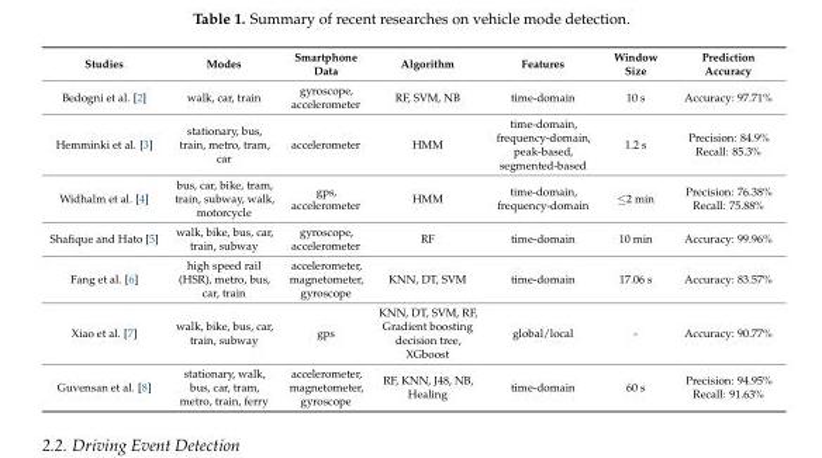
<table><thead><tr><td>Studies</td><td>Modes</td><td>Smartphone Data</td><td>Algorithm</td><td>Features</td><td>Window Size</td><td>Prediction Accuracy</td></tr></thead><tbody><tr><td>Bedogni et al. [2]</td><td>walk, car, train</td><td>gyroscope, accelerometer</td><td>RF, SVM, NB</td><td>time-domain</td><td>10 s</td><td>Accuracy: 97.71%</td></tr><tr><td>Hemminki et al. [3]</td><td>stationary, bus, train, metro, tram, car</td><td>accelerometer</td><td>HMM</td><td>time-domain, frequency-domain, peak-based, segmented-based</td><td>1.2 s</td><td>Precision: 84.9% Recall: 85.3%</td></tr><tr><td>Widhalm et al. [4]</td><td>bus, car, bike, tram, train, subway, walk, motorcycle</td><td>gps, accelerometer</td><td>HMM</td><td>time-domain, frequency-domain</td><td>≤2 min</td><td>Precision: 76.38% Recall: 75.88%</td></tr><tr><td>Shafique and Hato [5]</td><td>walk, bike, bus, car, train, subway</td><td>gyroscope, accelerometer</td><td>RF</td><td>time-domain</td><td>10 min</td><td>Accuracy: 99.96%</td></tr><tr><td>Fang et al. [6]</td><td>high speed rail (HSR), metro, bus, car, train</td><td>accelerometer, magnetometer, gyroscope</td><td>KNN, DT, SVM</td><td>time-domain</td><td>17.06 s</td><td>Accuracy: 83.57%</td></tr><tr><td>Xiao et al. [7]</td><td>walk, bike, bus, car, train, subway</td><td>gps</td><td>KNN, DT, SVM, RF, Gradient boosting decision tree, XGboost</td><td>global/local</td><td>-</td><td>Accuracy: 90.77%</td></tr><tr><td>Guvensan et al. [8]</td><td>stationary, walk, bus, car, tram, metro, train, ferry</td><td>accelerometer, magnetometer, gyroscope</td><td>RF, KNN, J48, NB, Healing</td><td>time-domain</td><td>60 s</td><td>Precision: 94.95% Recall: 91.63%</td></tr></tbody></table>